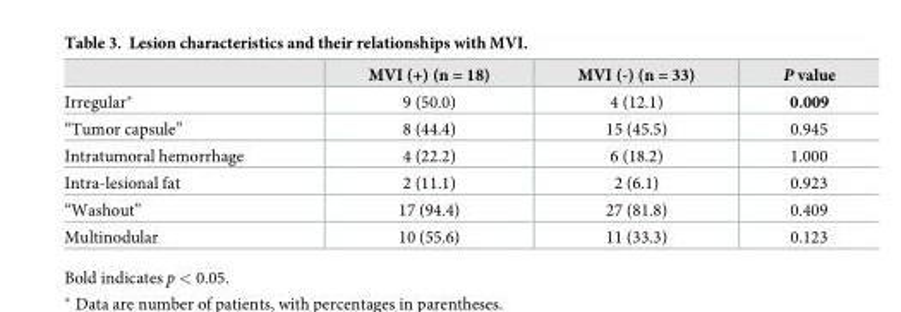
<table><thead><tr><td></td><td>MVI (+) (n = 18)</td><td>MVI (-) (n = 33)</td><td>P value</td></tr></thead><tbody><tr><td>Irregular*</td><td>9 (50.0)</td><td>4 (12.1)</td><td>0.009</td></tr><tr><td>“Tumor capsule”</td><td>8 (44.4)</td><td>15 (45.5)</td><td>0.945</td></tr><tr><td>Intratumoral hemorrhage</td><td>4 (22.2)</td><td>6 (18.2)</td><td>1.000</td></tr><tr><td>Intra-lesional fat</td><td>2 (11.1)</td><td>2 (6.1)</td><td>0.923</td></tr><tr><td>“Washout”</td><td>17 (94.4)</td><td>27 (81.8)</td><td>0.409</td></tr><tr><td>Multinodular</td><td>10 (55.6)</td><td>11 (33.3)</td><td>0.123</td></tr></tbody></table>